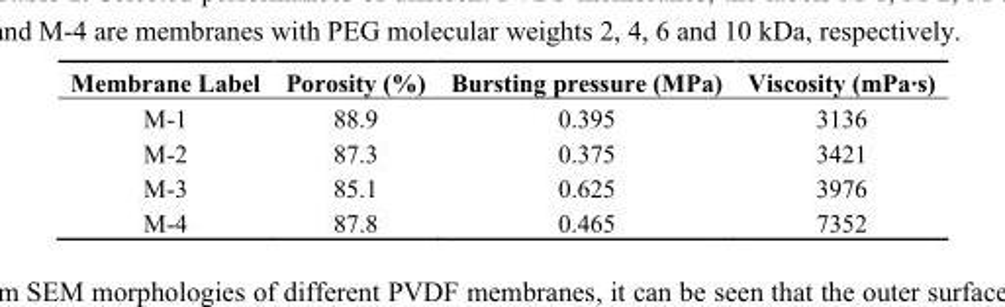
<table><thead><tr><td>Membrane Label</td><td>Porosity (%)</td><td>Bursting pressure (MPa)</td><td>Viscosity (mPa∙s)</td></tr></thead><tbody><tr><td>M-1</td><td>88.9</td><td>0.395</td><td>3136</td></tr><tr><td>M-2</td><td>87.3</td><td>0.375</td><td>3421</td></tr><tr><td>M-3</td><td>85.1</td><td>0.625</td><td>3976</td></tr><tr><td>M-4</td><td>87.8</td><td>0.465</td><td>7352</td></tr></tbody></table>